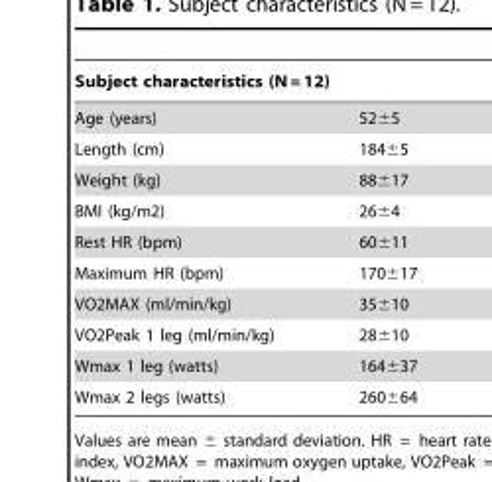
<table><thead><tr><td>Subject characteristics (N = 12)</td><td></td></tr></thead><tbody><tr><td>Age (years)</td><td>52±5</td></tr><tr><td>Length (cm)</td><td>184±5</td></tr><tr><td>Weight (kg)</td><td>88±17</td></tr><tr><td>BMI (kg/m2)</td><td>26±4</td></tr><tr><td>Rest HR (bpm)</td><td>60±11</td></tr><tr><td>Maximum HR (bpm)</td><td>170±17</td></tr><tr><td>VO2MAX (ml/min/kg)</td><td>35±10</td></tr><tr><td>VO2Peak 1 leg (ml/min/kg)</td><td>28±10</td></tr><tr><td>Wmax 1 leg (watts)</td><td>164±37</td></tr><tr><td>Wmax 2 legs (watts)</td><td>260±64</td></tr></tbody></table>